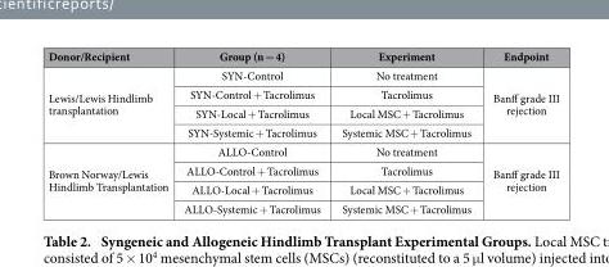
<table><thead><tr><td>Donor/Recipient</td><td>Group (n = 4)</td><td>Experiment</td><td>Endpoint</td></tr></thead><tbody><tr><td rowspan="4">Lewis/Lewis Hindlimb transplantation</td><td>SYN-Control</td><td>No treatment</td><td rowspan="4">Banff grade III rejection</td></tr><tr><td>SYN-Control + Tacrolimus</td><td>Tacrolimus</td></tr><tr><td>SYN-Local + Tacrolimus</td><td>Local MSC + Tacrolimus</td></tr><tr><td>SYN-Systemic + Tacrolimus</td><td>Systemic MSC + Tacrolimus</td></tr><tr><td rowspan="4">Brown Norway/Lewis Hindlimb Transplantation</td><td>ALLO-Control</td><td>No treatment</td><td rowspan="4">Banff grade III rejection</td></tr><tr><td>ALLO-Control + Tacrolimus</td><td>Tacrolimus</td></tr><tr><td>ALLO-Local + Tacrolimus</td><td>Local MSC + Tacrolimus</td></tr><tr><td>ALLO-Systemic + Tacrolimus</td><td>Systemic MSC + Tacrolimus</td></tr></tbody></table>